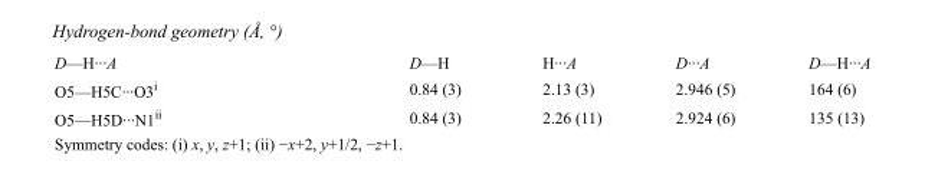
<table><tbody><tr><td>D—H···A</td><td>D—H</td><td>H···A</td><td>D···A</td><td>D—H···A</td></tr><tr><td>O5—H5C···O3<sup>i</sup></td><td>0.84 (3)</td><td>2.13 (3)</td><td>2.946 (5)</td><td>164 (6)</td></tr><tr><td>O5—H5D···N1<sup>ii</sup></td><td>0.84 (3)</td><td>2.26 (11)</td><td>2.924 (6)</td><td>135 (13)</td></tr></tbody></table>